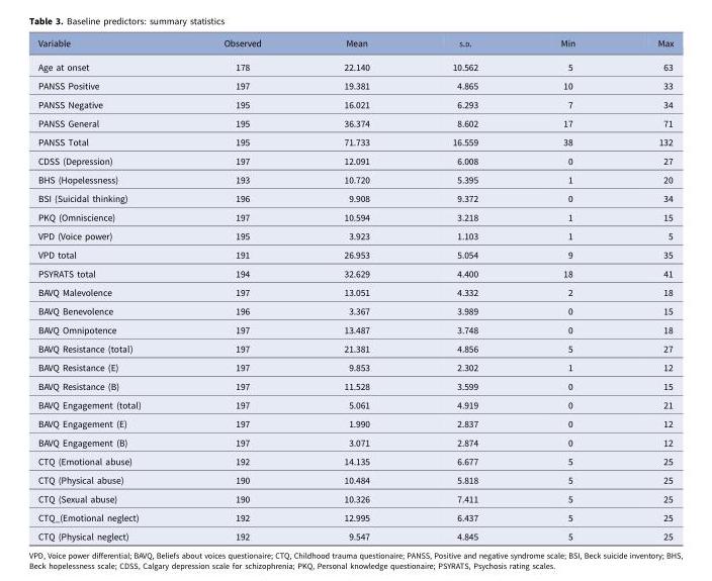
<table><thead><tr><td>Variable</td><td>Observed</td><td>Mean</td><td>S.D.</td><td>Min</td><td>Max</td></tr></thead><tbody><tr><td>Age at onset</td><td>178</td><td>22.140</td><td>10.562</td><td>5</td><td>63</td></tr><tr><td>PANSS Positive</td><td>197</td><td>19.381</td><td>4.865</td><td>10</td><td>33</td></tr><tr><td>PANSS Negative</td><td>195</td><td>16.021</td><td>6.293</td><td>7</td><td>34</td></tr><tr><td>PANSS General</td><td>195</td><td>36.374</td><td>8.602</td><td>17</td><td>71</td></tr><tr><td>PANSS Total</td><td>195</td><td>71.733</td><td>16.559</td><td>38</td><td>132</td></tr><tr><td>CDSS (Depression)</td><td>197</td><td>12.091</td><td>6.008</td><td>0</td><td>27</td></tr><tr><td>BHS (Hopelessness)</td><td>193</td><td>10.720</td><td>5.395</td><td>1</td><td>20</td></tr><tr><td>BSI (Suicidal thinking)</td><td>196</td><td>9.908</td><td>9.372</td><td>0</td><td>34</td></tr><tr><td>PKQ (Omniscience)</td><td>197</td><td>10.594</td><td>3.218</td><td>1</td><td>15</td></tr><tr><td>VPD (Voice power)</td><td>195</td><td>3.923</td><td>1.103</td><td>1</td><td>5</td></tr><tr><td>VPD total</td><td>191</td><td>26.953</td><td>5.054</td><td>9</td><td>35</td></tr><tr><td>PSYRATS total</td><td>194</td><td>32.629</td><td>4.400</td><td>18</td><td>41</td></tr><tr><td>BAVQ Malevolence</td><td>197</td><td>13.051</td><td>4.332</td><td>2</td><td>18</td></tr><tr><td>BAVQ Benevolence</td><td>196</td><td>3.367</td><td>3.989</td><td>0</td><td>15</td></tr><tr><td>BAVQ Omnipotence</td><td>197</td><td>13.487</td><td>3.748</td><td>0</td><td>18</td></tr><tr><td>BAVQ Resistance (total)</td><td>197</td><td>21.381</td><td>4.856</td><td>5</td><td>27</td></tr><tr><td>BAVQ Resistance (E)</td><td>197</td><td>9.853</td><td>2.302</td><td>1</td><td>12</td></tr><tr><td>BAVQ Resistance (B)</td><td>197</td><td>11.528</td><td>3.599</td><td>0</td><td>15</td></tr><tr><td>BAVQ Engagement (total)</td><td>197</td><td>5.061</td><td>4.919</td><td>0</td><td>21</td></tr><tr><td>BAVQ Engagement (E)</td><td>197</td><td>1.990</td><td>2.837</td><td>0</td><td>12</td></tr><tr><td>BAVQ Engagement (B)</td><td>197</td><td>3.071</td><td>2.874</td><td>0</td><td>12</td></tr><tr><td>CTQ (Emotional abuse)</td><td>192</td><td>14.135</td><td>6.677</td><td>5</td><td>25</td></tr><tr><td>CTQ (Physical abuse)</td><td>190</td><td>10.484</td><td>5.818</td><td>5</td><td>25</td></tr><tr><td>CTQ (Sexual abuse)</td><td>190</td><td>10.326</td><td>7.411</td><td>5</td><td>25</td></tr><tr><td>CTQ_(Emotional neglect)</td><td>192</td><td>12.995</td><td>6.437</td><td>5</td><td>25</td></tr><tr><td>CTQ (Physical neglect)</td><td>192</td><td>9.547</td><td>4.845</td><td>5</td><td>25</td></tr></tbody></table>